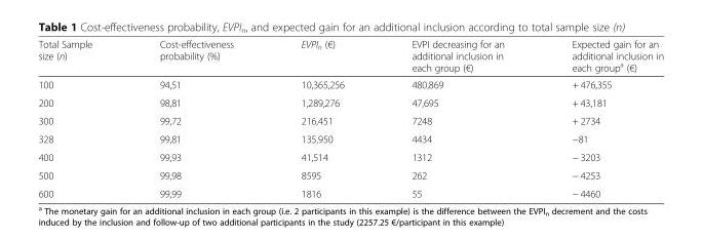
<table><thead><tr><td>Total Sample size (n)</td><td>Cost-effectiveness probability (%)</td><td>EVPI<sub>n</sub> (€)</td><td>EVPI decreasing for an additional inclusion in each group (€)</td><td>Expected gain for an additional inclusion in each group<sup>a</sup> (€)</td></tr></thead><tbody><tr><td>100</td><td>94,51</td><td>10,365,256</td><td>480,869</td><td>+ 476,355</td></tr><tr><td>200</td><td>98,81</td><td>1,289,276</td><td>47,695</td><td>+ 43,181</td></tr><tr><td>300</td><td>99,72</td><td>216,451</td><td>7248</td><td>+ 2734</td></tr><tr><td>328</td><td>99,81</td><td>135,950</td><td>4434</td><td>−81</td></tr><tr><td>400</td><td>99,93</td><td>41,514</td><td>1312</td><td>− 3203</td></tr><tr><td>500</td><td>99,98</td><td>8595</td><td>262</td><td>− 4253</td></tr><tr><td>600</td><td>99,99</td><td>1816</td><td>55</td><td>− 4460</td></tr></tbody></table>